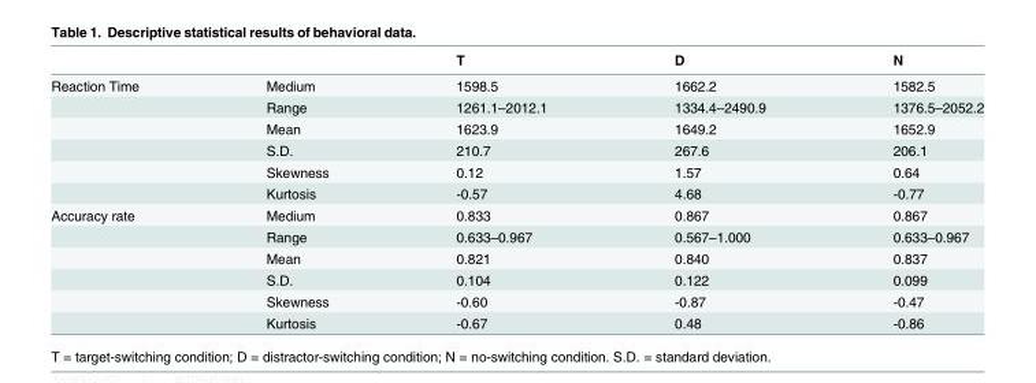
<table><thead><tr><td></td><td></td><td>T</td><td>D</td><td>N</td></tr></thead><tbody><tr><td rowspan="6">Reaction Time</td><td>Medium</td><td>1598.5</td><td>1662.2</td><td>1582.5</td></tr><tr><td>Range</td><td>1261.1–2012.1</td><td>1334.4–2490.9</td><td>1376.5–2052.2</td></tr><tr><td>Mean</td><td>1623.9</td><td>1649.2</td><td>1652.9</td></tr><tr><td>S.D.</td><td>210.7</td><td>267.6</td><td>206.1</td></tr><tr><td>Skewness</td><td>0.12</td><td>1.57</td><td>0.64</td></tr><tr><td>Kurtosis</td><td>-0.57</td><td>4.68</td><td>-0.77</td></tr><tr><td rowspan="6">Accuracy rate</td><td>Medium</td><td>0.833</td><td>0.867</td><td>0.867</td></tr><tr><td>Range</td><td>0.633–0.967</td><td>0.567–1.000</td><td>0.633–0.967</td></tr><tr><td>Mean</td><td>0.821</td><td>0.840</td><td>0.837</td></tr><tr><td>S.D.</td><td>0.104</td><td>0.122</td><td>0.099</td></tr><tr><td>Skewness</td><td>-0.60</td><td>-0.87</td><td>-0.47</td></tr><tr><td>Kurtosis</td><td>-0.67</td><td>0.48</td><td>-0.86</td></tr></tbody></table>